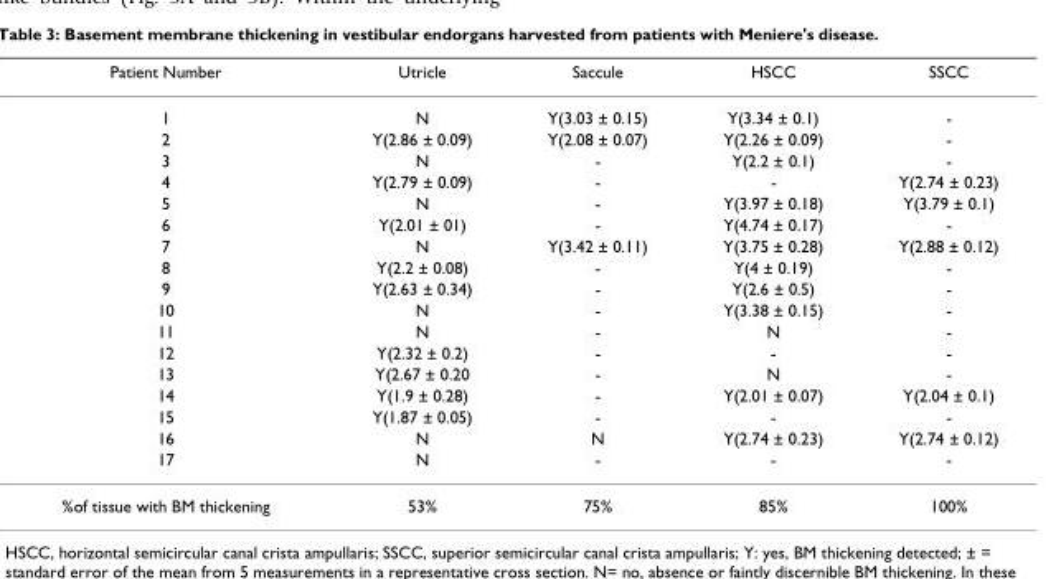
<table><thead><tr><td>Patient Number</td><td>Utricle</td><td>Saccule</td><td>HSCC</td><td>SSCC</td></tr></thead><tbody><tr><td>1</td><td>N</td><td>Y(3.03 ± 0.15)</td><td>Y(3.34 ± 0.1)</td><td>-</td></tr><tr><td>2</td><td>Y(2.86 ± 0.09)</td><td>Y(2.08 ± 0.07)</td><td>Y(2.26 ± 0.09)</td><td>-</td></tr><tr><td>3</td><td>N</td><td>-</td><td>Y(2.2 ± 0.1)</td><td>-</td></tr><tr><td>4</td><td>Y(2.79 ± 0.09)</td><td>-</td><td>-</td><td>Y(2.74 ± 0.23)</td></tr><tr><td>5</td><td>N</td><td>-</td><td>Y(3.97 ± 0.18)</td><td>Y(3.79 ± 0.1)</td></tr><tr><td>6</td><td>Y(2.01 ± 01)</td><td>-</td><td>Y(4.74 ± 0.17)</td><td>-</td></tr><tr><td>7</td><td>N</td><td>Y(3.42 ± 0.11)</td><td>Y(3.75 ± 0.28)</td><td>Y(2.88 ± 0.12)</td></tr><tr><td>8</td><td>Y(2.2 ± 0.08)</td><td>-</td><td>Y(4 ± 0.19)</td><td>-</td></tr><tr><td>9</td><td>Y(2.63 ± 0.34)</td><td>-</td><td>Y(2.6 ± 0.5)</td><td>-</td></tr><tr><td>10</td><td>N</td><td>-</td><td>Y(3.38 ± 0.15)</td><td>-</td></tr><tr><td>11</td><td>N</td><td>-</td><td>N</td><td>-</td></tr><tr><td>12</td><td>Y(2.32 ± 0.2)</td><td>-</td><td>-</td><td>-</td></tr><tr><td>13</td><td>Y(2.67 ± 0.20</td><td>-</td><td>N</td><td>-</td></tr><tr><td>14</td><td>Y(1.9 ± 0.28)</td><td>-</td><td>Y(2.01 ± 0.07)</td><td>Y(2.04 ± 0.1)</td></tr><tr><td>15</td><td>Y(1.87 ± 0.05)</td><td>-</td><td>-</td><td>-</td></tr><tr><td>16</td><td>N</td><td>N</td><td>Y(2.74 ± 0.23)</td><td>Y(2.74 ± 0.12)</td></tr><tr><td>17</td><td>N</td><td>-</td><td>-</td><td>-</td></tr><tr><td>%of tissue with BM thickening</td><td>53%</td><td>75%</td><td>85%</td><td>100%</td></tr></tbody></table>